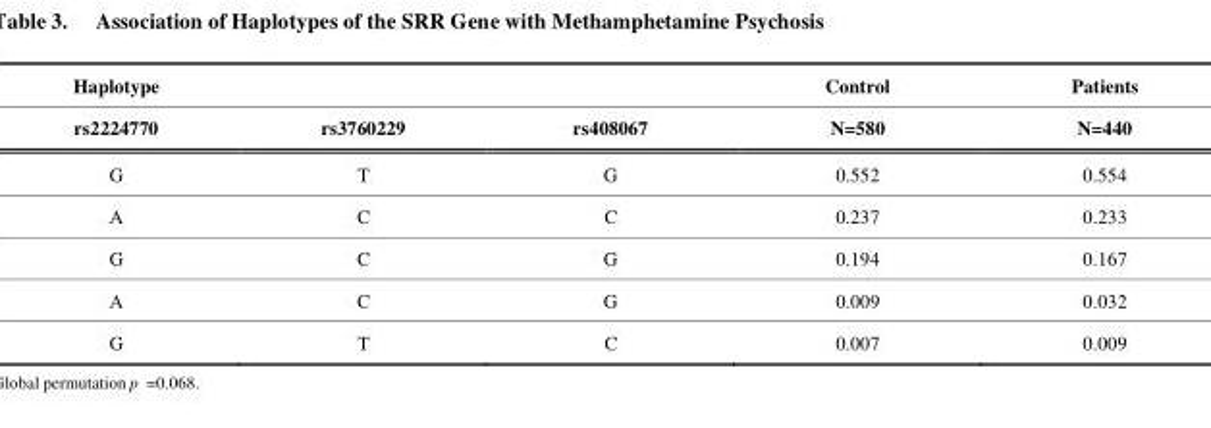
<table><thead><tr><td rowspan="2">Haplotype rs2224770</td><td rowspan="2">rs3760229</td><td rowspan="2">rs408067</td><td rowspan="2">Control N=580</td><td rowspan="2">Patients N=440</td></tr><tr></tr></thead><tbody><tr><td>G</td><td>T</td><td>G</td><td>0.552</td><td>0.554</td></tr><tr><td>A</td><td>C</td><td>C</td><td>0.237</td><td>0.233</td></tr><tr><td>G</td><td>C</td><td>G</td><td>0.194</td><td>0.167</td></tr><tr><td>A</td><td>C</td><td>G</td><td>0.009</td><td>0.032</td></tr><tr><td>G</td><td>T</td><td>C</td><td>0.007</td><td>0.009</td></tr></tbody></table>